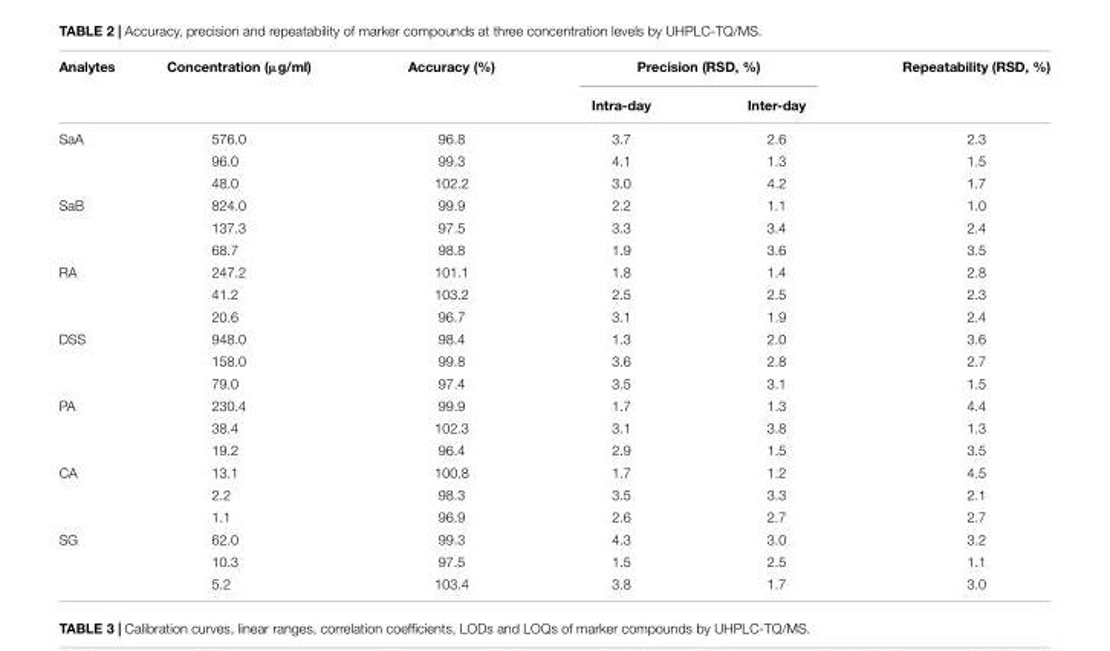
<table><thead><tr><td rowspan="2">Analytes</td><td rowspan="2">Concentration (µg/ml)</td><td rowspan="2">Accuracy (%)</td><td colspan="2">Precision (RSD, %)</td><td rowspan="2">Repeatability (RSD, %)</td></tr><tr><td>Intra-day</td><td>Inter-day</td></tr></thead><tbody><tr><td rowspan="3">SaA</td><td>576.0</td><td>96.8</td><td>3.7</td><td>2.6</td><td>2.3</td></tr><tr><td>96.0</td><td>99.3</td><td>4.1</td><td>1.3</td><td>1.5</td></tr><tr><td>48.0</td><td>102.2</td><td>3.0</td><td>4.2</td><td>1.7</td></tr><tr><td rowspan="3">SaB</td><td>824.0</td><td>99.9</td><td>2.2</td><td>1.1</td><td>1.0</td></tr><tr><td>137.3</td><td>97.5</td><td>3.3</td><td>3.4</td><td>2.4</td></tr><tr><td>68.7</td><td>98.8</td><td>1.9</td><td>3.6</td><td>3.5</td></tr><tr><td rowspan="3">RA</td><td>247.2</td><td>101.1</td><td>1.8</td><td>1.4</td><td>2.8</td></tr><tr><td>41.2</td><td>103.2</td><td>2.5</td><td>2.5</td><td>2.3</td></tr><tr><td>20.6</td><td>96.7</td><td>3.1</td><td>1.9</td><td>2.4</td></tr><tr><td rowspan="3">DSS</td><td>948.0</td><td>98.4</td><td>1.3</td><td>2.0</td><td>3.6</td></tr><tr><td>158.0</td><td>99.8</td><td>3.6</td><td>2.8</td><td>2.7</td></tr><tr><td>79.0</td><td>97.4</td><td>3.5</td><td>3.1</td><td>1.5</td></tr><tr><td rowspan="3">PA</td><td>230.4</td><td>99.9</td><td>1.7</td><td>1.3</td><td>4.4</td></tr><tr><td>38.4</td><td>102.3</td><td>3.1</td><td>3.8</td><td>1.3</td></tr><tr><td>19.2</td><td>96.4</td><td>2.9</td><td>1.5</td><td>3.5</td></tr><tr><td rowspan="3">CA</td><td>13.1</td><td>100.8</td><td>1.7</td><td>1.2</td><td>4.5</td></tr><tr><td>2.2</td><td>98.3</td><td>3.5</td><td>3.3</td><td>2.1</td></tr><tr><td>1.1</td><td>96.9</td><td>2.6</td><td>2.7</td><td>2.7</td></tr><tr><td rowspan="3">SG</td><td>62.0</td><td>99.3</td><td>4.3</td><td>3.0</td><td>3.2</td></tr><tr><td>10.3</td><td>97.5</td><td>1.5</td><td>2.5</td><td>1.1</td></tr><tr><td>5.2</td><td>103.4</td><td>3.8</td><td>1.7</td><td>3.0</td></tr></tbody></table>